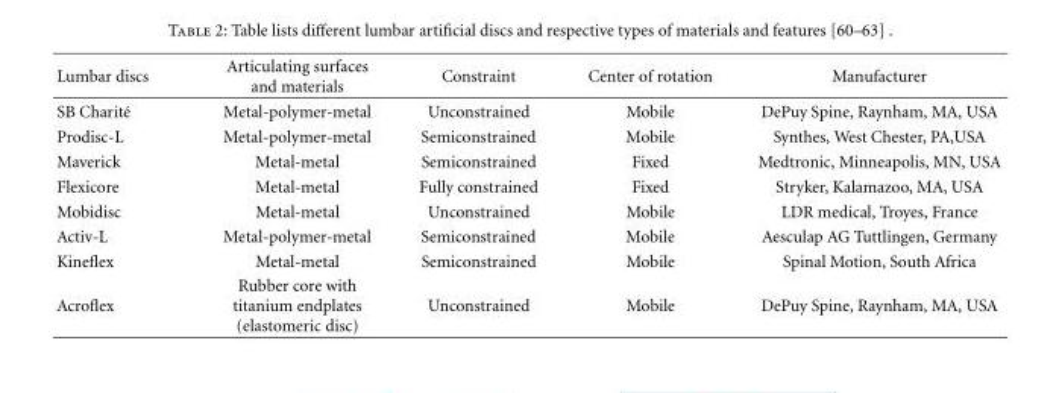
<table><thead><tr><td>Lumbar discs</td><td>Articulating surfaces and materials</td><td>Constraint</td><td>Center of rotation</td><td>Manufacturer</td></tr></thead><tbody><tr><td>SB Charit´e</td><td>Metal-polymer-metal</td><td>Unconstrained</td><td>Mobile</td><td>DePuy Spine, Raynham, MA, USA</td></tr><tr><td>Prodisc-L</td><td>Metal-polymer-metal</td><td>Semiconstrained</td><td>Mobile</td><td>Synthes, West Chester, PA,USA</td></tr><tr><td>Maverick</td><td>Metal-metal</td><td>Semiconstrained</td><td>Fixed</td><td>Medtronic, Minneapolis, MN, USA</td></tr><tr><td>Flexicore</td><td>Metal-metal</td><td>Fully constrained</td><td>Fixed</td><td>Stryker, Kalamazoo, MA, USA</td></tr><tr><td>Mobidisc</td><td>Metal-metal</td><td>Unconstrained</td><td>Mobile</td><td>LDR medical, Troyes, France</td></tr><tr><td>Activ-L</td><td>Metal-polymer-metal</td><td>Semiconstrained</td><td>Mobile</td><td>Aesculap AG Tuttlingen, Germany</td></tr><tr><td>Kineflex</td><td>Metal-metal</td><td>Semiconstrained</td><td>Mobile</td><td>Spinal Motion, South Africa</td></tr><tr><td>Acroflex</td><td>Rubber core with titanium endplates (elastomeric disc)</td><td>Unconstrained</td><td>Mobile</td><td>DePuy Spine, Raynham, MA, USA</td></tr></tbody></table>